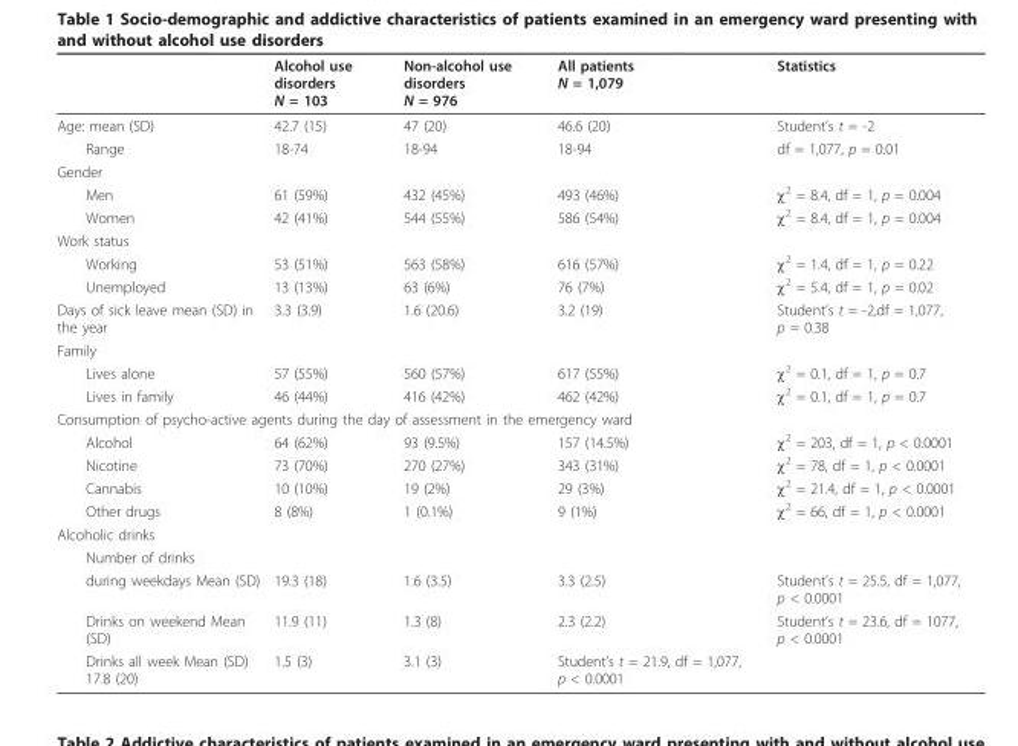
<table><thead><tr><td></td><td>Alcohol use disorders N = 103</td><td>Non-alcohol use disorders N = 976</td><td>All patients N = 1,079</td><td>Statistics</td></tr></thead><tbody><tr><td>Age: mean (SD)</td><td>42.7 (15)</td><td>47 (20)</td><td>46.6 (20)</td><td>Student’s t = -2</td></tr><tr><td>Range</td><td>18-74</td><td>18-94</td><td>18-94</td><td>df = 1,077, p = 0.01</td></tr><tr><td colspan="5">Gender</td></tr><tr><td>Men</td><td>61 (59%)</td><td>432 (45%)</td><td>493 (46%)</td><td>χ<sup>2</sup> = 8.4, df = 1, p = 0.004</td></tr><tr><td>Women</td><td>42 (41%)</td><td>544 (55%)</td><td>586 (54%)</td><td>χ<sup>2</sup> = 8.4, df = 1, p = 0.004</td></tr><tr><td colspan="5">Work status</td></tr><tr><td>Working</td><td>53 (51%)</td><td>563 (58%)</td><td>616 (57%)</td><td>χ<sup>2</sup> = 1.4, df = 1, p = 0.22</td></tr><tr><td>Unemployed</td><td>13 (13%)</td><td>63 (6%)</td><td>76 (7%)</td><td>χ<sup>2</sup> = 5.4, df = 1, p = 0.02</td></tr><tr><td>Days of sick leave mean (SD) in the year</td><td>3.3 (3.9)</td><td>1.6 (20.6)</td><td>3.2 (19)</td><td>Student’s t = -2,df = 1,077, p = 0.38</td></tr><tr><td colspan="5">Family</td></tr><tr><td>Lives alone</td><td>57 (55%)</td><td>560 (57%)</td><td>617 (55%)</td><td>χ<sup>2</sup> = 0.1, df = 1, p = 0.7</td></tr><tr><td>Lives in family</td><td>46 (44%)</td><td>416 (42%)</td><td>462 (42%)</td><td>χ<sup>2</sup> = 0.1, df = 1, p = 0.7</td></tr><tr><td colspan="5">Consumption of psycho-active agents during the day of assessment in the emergency ward</td></tr><tr><td>Alcohol</td><td>64 (62%)</td><td>93 (9.5%)</td><td>157 (14.5%)</td><td>χ<sup>2</sup> = 203, df = 1, p &lt; 0.0001</td></tr><tr><td>Nicotine</td><td>73 (70%)</td><td>270 (27%)</td><td>343 (31%)</td><td>χ<sup>2</sup> = 78, df = 1, p &lt; 0.0001</td></tr><tr><td>Cannabis</td><td>10 (10%)</td><td>19 (2%)</td><td>29 (3%)</td><td>χ<sup>2</sup> = 21.4, df = 1, p &lt; 0.0001</td></tr><tr><td>Other drugs</td><td>8 (8%)</td><td>1 (0.1%)</td><td>9 (1%)</td><td>χ<sup>2</sup> = 66, df = 1, p &lt; 0.0001</td></tr><tr><td colspan="5">Alcoholic drinks</td></tr><tr><td colspan="5">Number of drinks</td></tr><tr><td>during weekdays Mean (SD)</td><td>19.3 (18)</td><td>1.6 (3.5)</td><td>3.3 (2.5)</td><td>Student’s t = 25.5, df = 1,077, p &lt; 0.0001</td></tr><tr><td>Drinks on weekend Mean (SD)</td><td>11.9 (11)</td><td>1.3 (8)</td><td>2.3 (2.2)</td><td>Student’s t = 23.6, df = 1077, p &lt; 0.0001</td></tr><tr><td>Drinks all week Mean (SD) 17.8 (20)</td><td>1.5 (3)</td><td>3.1 (3)</td><td>Student’s t = 21.9, df = 1,077, p &lt; 0.0001</td><td></td></tr></tbody></table>